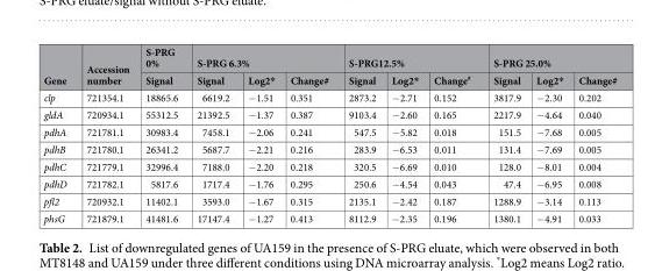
<table><thead><tr><td rowspan="2">Gene</td><td rowspan="2">Accession number</td><td rowspan="2">S-PRG 0% Signal</td><td colspan="3">S-PRG 6.3%</td><td colspan="3">S-PRG12.5%</td><td colspan="3">S-PRG 25.0%</td></tr><tr><td>Signal</td><td>Log2*</td><td>Change#</td><td>Signal</td><td>Log2*</td><td>Change<sup>#</sup></td><td>Signal</td><td>Log2*</td><td>Change#</td></tr></thead><tbody><tr><td>clp</td><td>721354.1</td><td>18865.6</td><td>6619.2</td><td>−1.51</td><td>0.351</td><td>2873.2</td><td>−2.71</td><td>0.152</td><td>3817.9</td><td>−2.30</td><td>0.202</td></tr><tr><td>gldA</td><td>720934.1</td><td>55312.5</td><td>21392.5</td><td>−1.37</td><td>0.387</td><td>9103.4</td><td>−2.60</td><td>0.165</td><td>2217.9</td><td>−4.64</td><td>0.040</td></tr><tr><td>pdhA</td><td>721781.1</td><td>30983.4</td><td>7458.1</td><td>−2.06</td><td>0.241</td><td>547.5</td><td>−5.82</td><td>0.018</td><td>151.5</td><td>−7.68</td><td>0.005</td></tr><tr><td>pdhB</td><td>721780.1</td><td>26341.2</td><td>5687.7</td><td>−2.21</td><td>0.216</td><td>283.9</td><td>−6.53</td><td>0.011</td><td>131.4</td><td>−7.69</td><td>0.005</td></tr><tr><td>pdhC</td><td>721779.1</td><td>32996.4</td><td>7188.0</td><td>−2.20</td><td>0.218</td><td>320.5</td><td>−6.69</td><td>0.010</td><td>128.0</td><td>−8.01</td><td>0.004</td></tr><tr><td>pdhD</td><td>721782.1</td><td>5817.6</td><td>1717.4</td><td>−1.76</td><td>0.295</td><td>250.6</td><td>−4.54</td><td>0.043</td><td>47.4</td><td>−6.95</td><td>0.008</td></tr><tr><td>pfl2</td><td>720932.1</td><td>11402.1</td><td>3593.0</td><td>−1.67</td><td>0.315</td><td>2135.1</td><td>−2.42</td><td>0.187</td><td>1288.9</td><td>−3.14</td><td>0.113</td></tr><tr><td>phsG</td><td>721879.1</td><td>41481.6</td><td>17147.4</td><td>−1.27</td><td>0.413</td><td>8112.9</td><td>−2.35</td><td>0.196</td><td>1380.1</td><td>−4.91</td><td>0.033</td></tr></tbody></table>